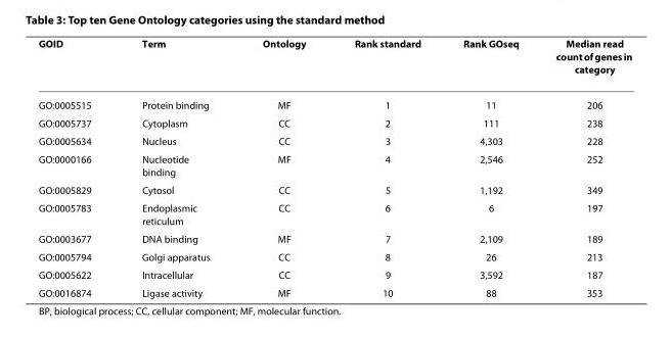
<table><thead><tr><td>GOID</td><td>Term</td><td>Ontology</td><td>Rank standard</td><td>Rank GOseq</td><td>Median read count of genes in category</td></tr></thead><tbody><tr><td>GO:0005515</td><td>Protein binding</td><td>MF</td><td>1</td><td>11</td><td>206</td></tr><tr><td>GO:0005737</td><td>Cytoplasm</td><td>CC</td><td>2</td><td>111</td><td>238</td></tr><tr><td>GO:0005634</td><td>Nucleus</td><td>CC</td><td>3</td><td>4,303</td><td>228</td></tr><tr><td>GO:0000166</td><td>Nucleotide binding</td><td>MF</td><td>4</td><td>2,546</td><td>252</td></tr><tr><td>GO:0005829</td><td>Cytosol</td><td>CC</td><td>5</td><td>1,192</td><td>349</td></tr><tr><td>GO:0005783</td><td>Endoplasmic reticulum</td><td>CC</td><td>6</td><td>6</td><td>197</td></tr><tr><td>GO:0003677</td><td>DNA binding</td><td>MF</td><td>7</td><td>2,109</td><td>189</td></tr><tr><td>GO:0005794</td><td>Golgi apparatus</td><td>CC</td><td>8</td><td>26</td><td>213</td></tr><tr><td>GO:0005622</td><td>Intracellular</td><td>CC</td><td>9</td><td>3,592</td><td>187</td></tr><tr><td>GO:0016874</td><td>Ligase activity</td><td>MF</td><td>10</td><td>88</td><td>353</td></tr></tbody></table>